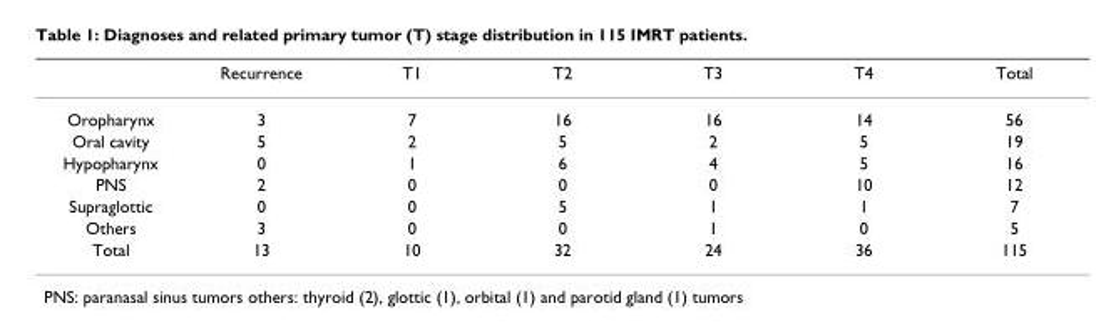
<table><thead><tr><td></td><td>Recurrence</td><td>T1</td><td>T2</td><td>T3</td><td>T4</td><td>Total</td></tr></thead><tbody><tr><td>Oropharynx</td><td>3</td><td>7</td><td>16</td><td>16</td><td>14</td><td>56</td></tr><tr><td>Oral cavity</td><td>5</td><td>2</td><td>5</td><td>2</td><td>5</td><td>19</td></tr><tr><td>Hypopharynx</td><td>0</td><td>1</td><td>6</td><td>4</td><td>5</td><td>16</td></tr><tr><td>PNS</td><td>2</td><td>0</td><td>0</td><td>0</td><td>10</td><td>12</td></tr><tr><td>Supraglottic</td><td>0</td><td>0</td><td>5</td><td>1</td><td>1</td><td>7</td></tr><tr><td>Others</td><td>3</td><td>0</td><td>0</td><td>1</td><td>0</td><td>5</td></tr><tr><td>Total</td><td>13</td><td>10</td><td>32</td><td>24</td><td>36</td><td>115</td></tr></tbody></table>